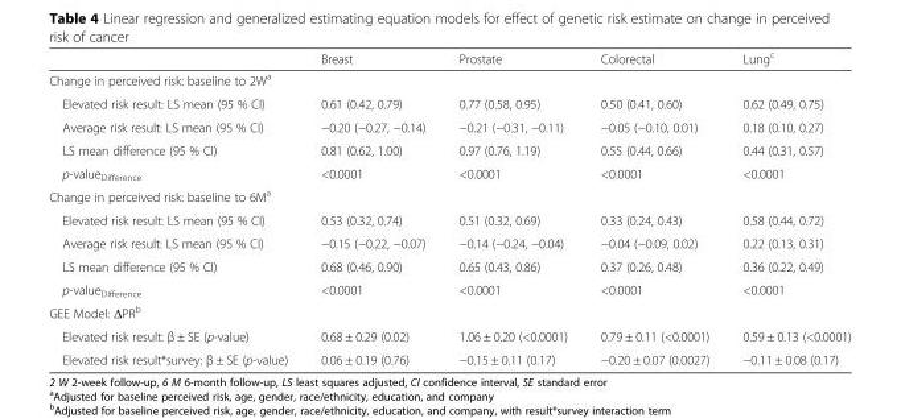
<table><thead><tr><td></td><td>Breast</td><td>Prostate</td><td>Colorectal</td><td>Lung<sup>c</sup></td></tr></thead><tbody><tr><td colspan="5">Change in perceived risk: baseline to 2W<sup>a</sup></td></tr><tr><td>Elevated risk result: LS mean (95 % CI)</td><td>0.61 (0.42, 0.79)</td><td>0.77 (0.58, 0.95)</td><td>0.50 (0.41, 0.60)</td><td>0.62 (0.49, 0.75)</td></tr><tr><td>Average risk result: LS mean (95 % CI)</td><td>−0.20 (−0.27, −0.14)</td><td>−0.21 (−0.31, −0.11)</td><td>−0.05 (−0.10, 0.01)</td><td>0.18 (0.10, 0.27)</td></tr><tr><td>LS mean difference (95 % CI)</td><td>0.81 (0.62, 1.00)</td><td>0.97 (0.76, 1.19)</td><td>0.55 (0.44, 0.66)</td><td>0.44 (0.31, 0.57)</td></tr><tr><td>p-value<sub>Difference</sub></td><td>&lt;0.0001</td><td>&lt;0.0001</td><td>&lt;0.0001</td><td>&lt;0.0001</td></tr><tr><td colspan="5">Change in perceived risk: baseline to 6M<sup>a</sup></td></tr><tr><td>Elevated risk result: LS mean (95 % CI)</td><td>0.53 (0.32, 0.74)</td><td>0.51 (0.32, 0.69)</td><td>0.33 (0.24, 0.43)</td><td>0.58 (0.44, 0.72)</td></tr><tr><td>Average risk result: LS mean (95 % CI)</td><td>−0.15 (−0.22, −0.07)</td><td>−0.14 (−0.24, −0.04)</td><td>−0.04 (−0.09, 0.02)</td><td>0.22 (0.13, 0.31)</td></tr><tr><td>LS mean difference (95 % CI)</td><td>0.68 (0.46, 0.90)</td><td>0.65 (0.43, 0.86)</td><td>0.37 (0.26, 0.48)</td><td>0.36 (0.22, 0.49)</td></tr><tr><td>p-value<sub>Difference</sub></td><td>&lt;0.0001</td><td>&lt;0.0001</td><td>&lt;0.0001</td><td>&lt;0.0001</td></tr><tr><td colspan="5">GEE Model: ΔPR<sup>b</sup></td></tr><tr><td>Elevated risk result: β ± SE (p-value)</td><td>0.68 ± 0.29 (0.02)</td><td>1.06 ± 0.20 (&lt;0.0001)</td><td>0.79 ± 0.11 (&lt;0.0001)</td><td>0.59 ± 0.13 (&lt;0.0001)</td></tr><tr><td>Elevated risk result*survey: β ± SE (p-value)</td><td>0.06 ± 0.19 (0.76)</td><td>−0.15 ± 0.11 (0.17)</td><td>−0.20 ± 0.07 (0.0027)</td><td>−0.11 ± 0.08 (0.17)</td></tr></tbody></table>